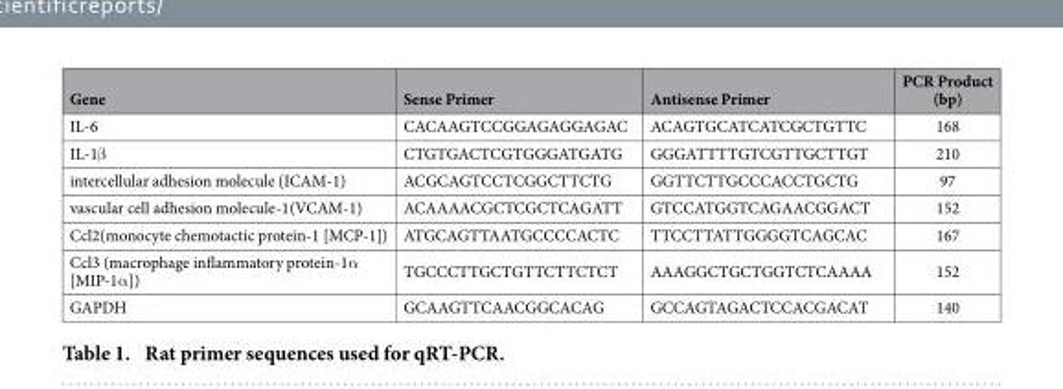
<table><thead><tr><td>Gene</td><td>Sense Primer</td><td>Antisense Primer</td><td>PCR Product (bp)</td></tr></thead><tbody><tr><td>IL-6</td><td>CACAAGTCCGGAGAGGAGAC</td><td>ACAGTGCATCATCGCTGTTC</td><td>168</td></tr><tr><td>IL-1β</td><td>CTGTGACTCGTGGGATGATG</td><td>GGGATTTTGTCGTTGCTTGT</td><td>210</td></tr><tr><td>intercellular adhesion molecule (ICAM-1)</td><td>ACGCAGTCCTCGGCTTCTG</td><td>GGTTCTTGCCCACCTGCTG</td><td>97</td></tr><tr><td>vascular cell adhesion molecule-1(VCAM-1)</td><td>ACAAAACGCTCGCTCAGATT</td><td>GTCCATGGTCAGAACGGACT</td><td>152</td></tr><tr><td>Ccl2(monocyte chemotactic protein-1 [MCP-1])</td><td>ATGCAGTTAATGCCCCACTC</td><td>TTCCTTATTGGGGTCAGCAC</td><td>167</td></tr><tr><td>Ccl3 (macrophage inflammatory protein-1α [MIP-1α ])</td><td>TGCCCTTGCTGTTCTTCTCT</td><td>AAAGGCTGCTGGTCTCAAAA</td><td>152</td></tr><tr><td>GAPDH</td><td>GCAAGTTCAACGGCACAG</td><td>GCCAGTAGACTCCACGACAT</td><td>140</td></tr></tbody></table>